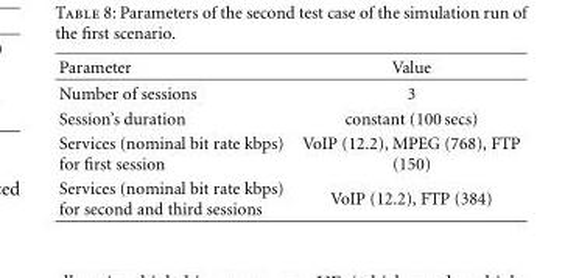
<table><thead><tr><td>Parameter</td><td>Value</td></tr></thead><tbody><tr><td>Number of sessions</td><td>3</td></tr><tr><td>Session’s duration</td><td>constant (100 secs)</td></tr><tr><td>Services (nominal bit rate kbps) for first session</td><td>VoIP (12.2), MPEG (768), FTP (150)</td></tr><tr><td>Services (nominal bit rate kbps) for second and third sessions</td><td>VoIP (12.2), FTP (384)</td></tr></tbody></table>